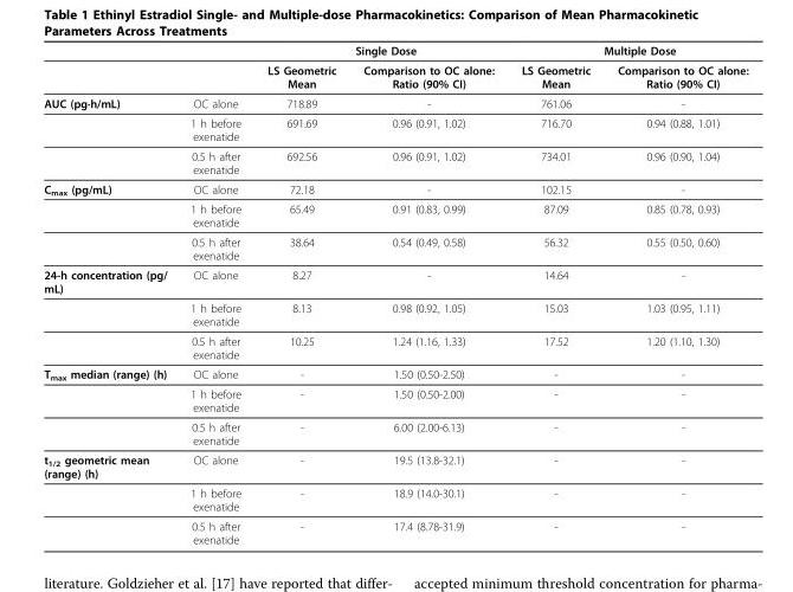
<table><thead><tr><td rowspan="2"></td><td rowspan="2"></td><td colspan="2">Single Dose</td><td colspan="2">Multiple Dose</td></tr><tr><td>LS Geometric Mean</td><td>Comparison to OC alone: Ratio (90% CI)</td><td>LS Geometric Mean</td><td>Comparison to OC alone: Ratio (90% CI)</td></tr></thead><tbody><tr><td rowspan="3">AUC (pg·h/mL)</td><td>OC alone</td><td>718.89</td><td>-</td><td>761.06</td><td>-</td></tr><tr><td>1 h before exenatide</td><td>691.69</td><td>0.96 (0.91, 1.02)</td><td>716.70</td><td>0.94 (0.88, 1.01)</td></tr><tr><td>0.5 h after exenatide</td><td>692.56</td><td>0.96 (0.91, 1.02)</td><td>734.01</td><td>0.96 (0.90, 1.04)</td></tr><tr><td rowspan="3">C<sub>max</sub> (pg/mL)</td><td>OC alone</td><td>72.18</td><td>-</td><td>102.15</td><td>-</td></tr><tr><td>1 h before exenatide</td><td>65.49</td><td>0.91 (0.83, 0.99)</td><td>87.09</td><td>0.85 (0.78, 0.93)</td></tr><tr><td>0.5 h after exenatide</td><td>38.64</td><td>0.54 (0.49, 0.58)</td><td>56.32</td><td>0.55 (0.50, 0.60)</td></tr><tr><td rowspan="3">24-h concentration (pg/ mL)</td><td>OC alone</td><td>8.27</td><td>-</td><td>14.64</td><td>-</td></tr><tr><td>1 h before exenatide</td><td>8.13</td><td>0.98 (0.92, 1.05)</td><td>15.03</td><td>1.03 (0.95, 1.11)</td></tr><tr><td>0.5 h after exenatide</td><td>10.25</td><td>1.24 (1.16, 1.33)</td><td>17.52</td><td>1.20 (1.10, 1.30)</td></tr><tr><td rowspan="3">T<sub>max</sub> median (range) (h)</td><td>OC alone</td><td>-</td><td>1.50 (0.50-2.50)</td><td>-</td><td>-</td></tr><tr><td>1 h before exenatide</td><td>-</td><td>1.50 (0.50-2.00)</td><td>-</td><td>-</td></tr><tr><td>0.5 h after exenatide</td><td>-</td><td>6.00 (2.00-6.13)</td><td>-</td><td>-</td></tr><tr><td rowspan="3">t<sub>1/2</sub> geometric mean (range) (h)</td><td>OC alone</td><td>-</td><td>19.5 (13.8-32.1)</td><td>-</td><td>-</td></tr><tr><td>1 h before exenatide</td><td>-</td><td>18.9 (14.0-30.1)</td><td>-</td><td>-</td></tr><tr><td>0.5 h after exenatide</td><td>-</td><td>17.4 (8.78-31.9)</td><td>-</td><td>-</td></tr></tbody></table>